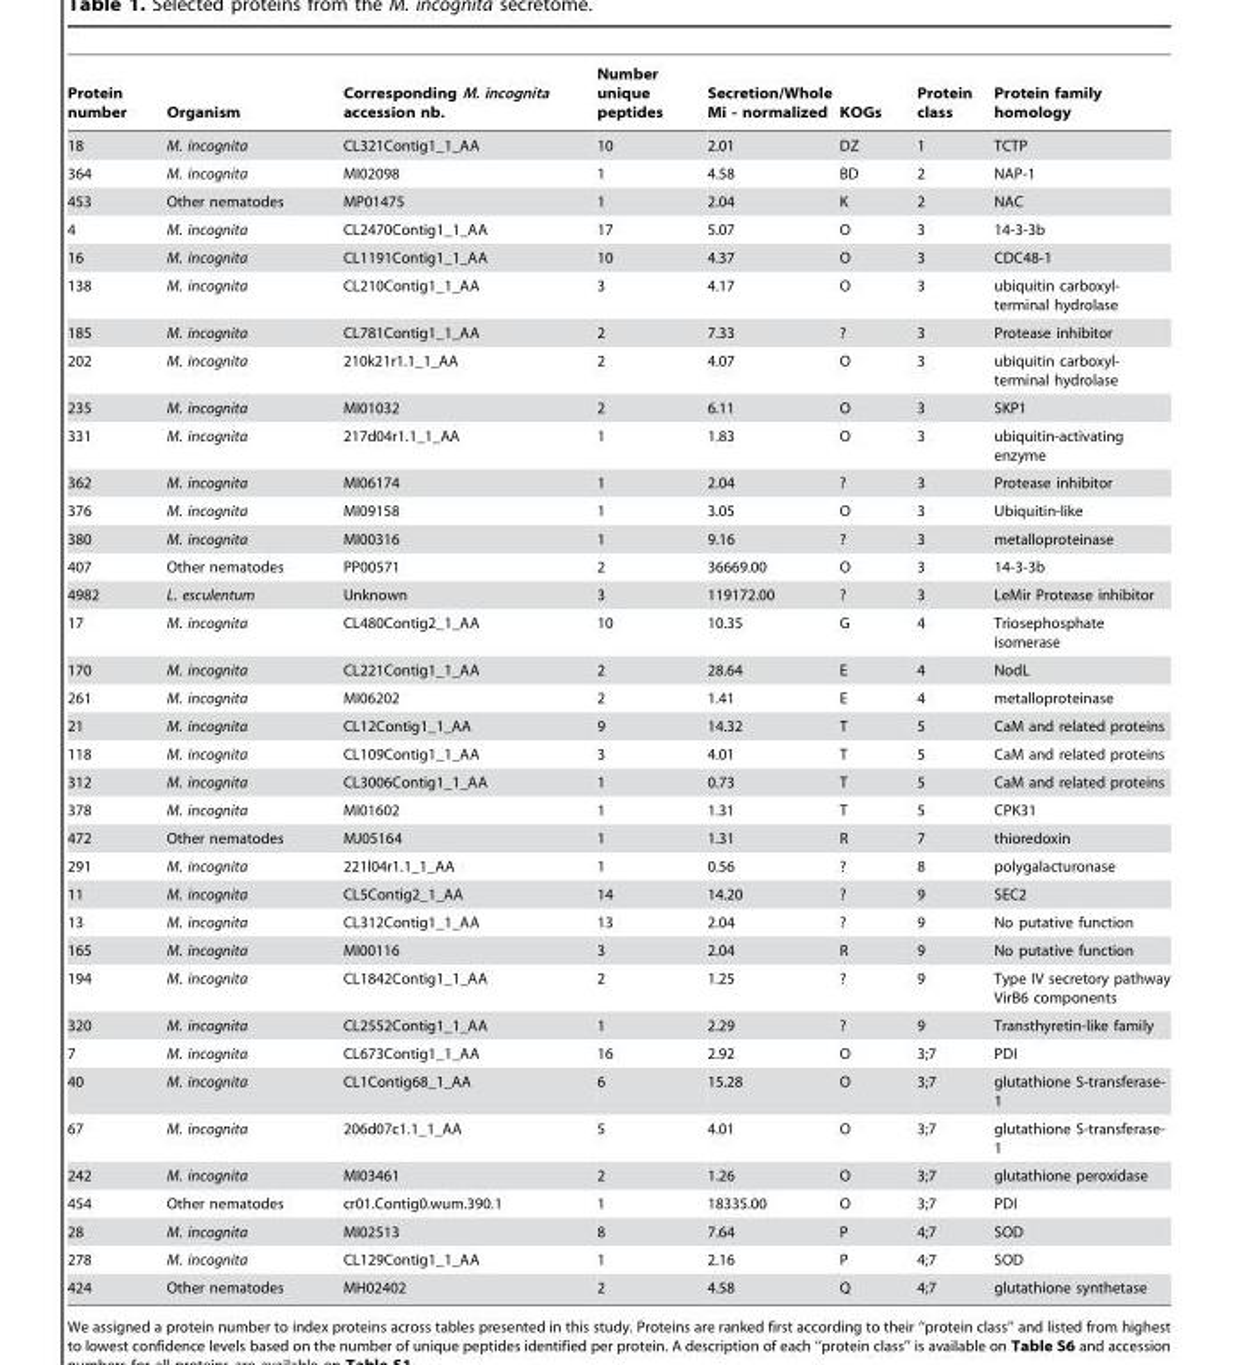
<table><thead><tr><td>Protein number</td><td>Organism</td><td>Corresponding M. incognita accession nb.</td><td>Number unique peptides</td><td>Secretion/Whole Mi - normalized</td><td>KOGs</td><td>Protein class</td><td>Protein family homology</td></tr></thead><tbody><tr><td>18</td><td>M. incognita</td><td>CL321Contig1_1_AA</td><td>10</td><td>2.01</td><td>DZ</td><td>1</td><td>TCTP</td></tr><tr><td>364</td><td>M. incognita</td><td>MI02098</td><td>1</td><td>4.58</td><td>BD</td><td>2</td><td>NAP-1</td></tr><tr><td>453</td><td>Other nematodes</td><td>MP01475</td><td>1</td><td>2.04</td><td>K</td><td>2</td><td>NAC</td></tr><tr><td>4</td><td>M. incognita</td><td>CL2470Contig1_1_AA</td><td>17</td><td>5.07</td><td>O</td><td>3</td><td>14-3-3b</td></tr><tr><td>16</td><td>M. incognita</td><td>CL1191Contig1_1_AA</td><td>10</td><td>4.37</td><td>O</td><td>3</td><td>CDC48-1</td></tr><tr><td>138</td><td>M. incognita</td><td>CL210Contig1_1_AA</td><td>3</td><td>4.17</td><td>O</td><td>3</td><td>ubiquitin carboxyl- terminal hydrolase</td></tr><tr><td>185</td><td>M. incognita</td><td>CL781Contig1_1_AA</td><td>2</td><td>7.33</td><td>?</td><td>3</td><td>Protease inhibitor</td></tr><tr><td>202</td><td>M. incognita</td><td>210k21r1.1_1_AA</td><td>2</td><td>4.07</td><td>O</td><td>3</td><td>ubiquitin carboxyl- terminal hydrolase</td></tr><tr><td>235</td><td>M. incognita</td><td>MI01032</td><td>2</td><td>6.11</td><td>O</td><td>3</td><td>SKP1</td></tr><tr><td>331</td><td>M. incognita</td><td>217d04r1.1_1_AA</td><td>1</td><td>1.83</td><td>O</td><td>3</td><td>ubiquitin-activating enzyme</td></tr><tr><td>362</td><td>M. incognita</td><td>MI06174</td><td>1</td><td>2.04</td><td>?</td><td>3</td><td>Protease inhibitor</td></tr><tr><td>376</td><td>M. incognita</td><td>MI09158</td><td>1</td><td>3.05</td><td>O</td><td>3</td><td>Ubiquitin-like</td></tr><tr><td>380</td><td>M. incognita</td><td>MI00316</td><td>1</td><td>9.16</td><td>?</td><td>3</td><td>metalloproteinase</td></tr><tr><td>407</td><td>Other nematodes</td><td>PP00571</td><td>2</td><td>36669.00</td><td>O</td><td>3</td><td>14-3-3b</td></tr><tr><td>4982</td><td>L. esculentum</td><td>Unknown</td><td>3</td><td>119172.00</td><td>?</td><td>3</td><td>LeMir Protease inhibitor</td></tr><tr><td>17</td><td>M. incognita</td><td>CL480Contig2_1_AA</td><td>10</td><td>10.35</td><td>G</td><td>4</td><td>Triosephosphate isomerase</td></tr><tr><td>170</td><td>M. incognita</td><td>CL221Contig1_1_AA</td><td>2</td><td>28.64</td><td>E</td><td>4</td><td>NodL</td></tr><tr><td>261</td><td>M. incognita</td><td>MI06202</td><td>2</td><td>1.41</td><td>E</td><td>4</td><td>metalloproteinase</td></tr><tr><td>21</td><td>M. incognita</td><td>CL12Contig1_1_AA</td><td>9</td><td>14.32</td><td>T</td><td>5</td><td>CaM and related proteins</td></tr><tr><td>118</td><td>M. incognita</td><td>CL109Contig1_1_AA</td><td>3</td><td>4.01</td><td>T</td><td>5</td><td>CaM and related proteins</td></tr><tr><td>312</td><td>M. incognita</td><td>CL3006Contig1_1_AA</td><td>1</td><td>0.73</td><td>T</td><td>5</td><td>CaM and related proteins</td></tr><tr><td>378</td><td>M. incognita</td><td>MI01602</td><td>1</td><td>1.31</td><td>T</td><td>5</td><td>CPK31</td></tr><tr><td>472</td><td>Other nematodes</td><td>MJ05164</td><td>1</td><td>1.31</td><td>R</td><td>7</td><td>thioredoxin</td></tr><tr><td>291</td><td>M. incognita</td><td>221l04r1.1_1_AA</td><td>1</td><td>0.56</td><td>?</td><td>8</td><td>polygalacturonase</td></tr><tr><td>11</td><td>M. incognita</td><td>CL5Contig2_1_AA</td><td>14</td><td>14.20</td><td>?</td><td>9</td><td>SEC2</td></tr><tr><td>13</td><td>M. incognita</td><td>CL312Contig1_1_AA</td><td>13</td><td>2.04</td><td>?</td><td>9</td><td>No putative function</td></tr><tr><td>165</td><td>M. incognita</td><td>MI00116</td><td>3</td><td>2.04</td><td>R</td><td>9</td><td>No putative function</td></tr><tr><td>194</td><td>M. incognita</td><td>CL1842Contig1_1_AA</td><td>2</td><td>1.25</td><td>?</td><td>9</td><td>Type IV secretory pathway VirB6 components</td></tr><tr><td>320</td><td>M. incognita</td><td>CL2552Contig1_1_AA</td><td>1</td><td>2.29</td><td>?</td><td>9</td><td>Transthyretin-like family</td></tr><tr><td>7</td><td>M. incognita</td><td>CL673Contig1_1_AA</td><td>16</td><td>2.92</td><td>O</td><td>3;7</td><td>PDI</td></tr><tr><td>40</td><td>M. incognita</td><td>CL1Contig68_1_AA</td><td>6</td><td>15.28</td><td>O</td><td>3;7</td><td>glutathione S-transferase- 1</td></tr><tr><td>67</td><td>M. incognita</td><td>206d07c1.1_1_AA</td><td>5</td><td>4.01</td><td>O</td><td>3;7</td><td>glutathione S-transferase- 1</td></tr><tr><td>242</td><td>M. incognita</td><td>MI03461</td><td>2</td><td>1.26</td><td>O</td><td>3;7</td><td>glutathione peroxidase</td></tr><tr><td>454</td><td>Other nematodes</td><td>cr01.Contig0.wum.390.1</td><td>1</td><td>18335.00</td><td>O</td><td>3;7</td><td>PDI</td></tr><tr><td>28</td><td>M. incognita</td><td>MI02513</td><td>8</td><td>7.64</td><td>P</td><td>4;7</td><td>SOD</td></tr><tr><td>278</td><td>M. incognita</td><td>CL129Contig1_1_AA</td><td>1</td><td>2.16</td><td>P</td><td>4;7</td><td>SOD</td></tr><tr><td>424</td><td>Other nematodes</td><td>MH02402</td><td>2</td><td>4.58</td><td>Q</td><td>4;7</td><td>glutathione synthetase</td></tr></tbody></table>